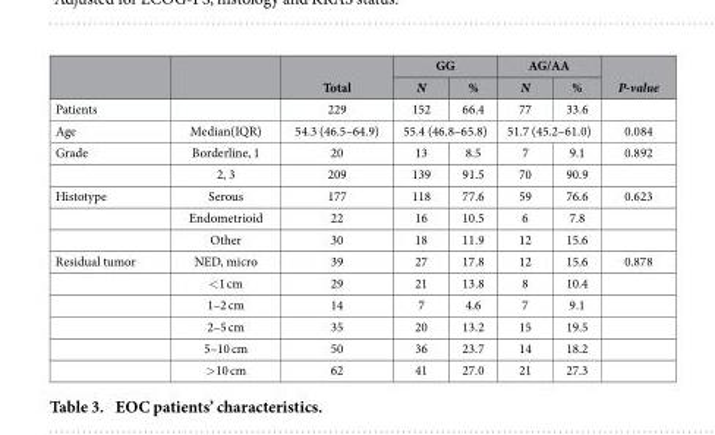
<table><thead><tr><td rowspan="2"></td><td rowspan="2"></td><td rowspan="2">Total</td><td colspan="2">GG</td><td colspan="2">AG/AA</td><td rowspan="2">P-value</td></tr><tr><td>N</td><td>%</td><td>N</td><td>%</td></tr></thead><tbody><tr><td>Patients</td><td></td><td>229</td><td>152</td><td>66.4</td><td>77</td><td>33.6</td><td></td></tr><tr><td>Age</td><td>Median(IQR)</td><td>54.3 (46.5–64.9)</td><td colspan="2">55.4 (46.8–65.8)</td><td colspan="2">51.7 (45.2–61.0)</td><td>0.084</td></tr><tr><td rowspan="2">Grade</td><td>Borderline, 1</td><td>20</td><td>13</td><td>8.5</td><td>7</td><td>9.1</td><td>0.892</td></tr><tr><td>2, 3</td><td>209</td><td>139</td><td>91.5</td><td>70</td><td>90.9</td><td></td></tr><tr><td rowspan="3">Histotype</td><td>Serous</td><td>177</td><td>118</td><td>77.6</td><td>59</td><td>76.6</td><td>0.623</td></tr><tr><td>Endometrioid</td><td>22</td><td>16</td><td>10.5</td><td>6</td><td>7.8</td><td></td></tr><tr><td>Other</td><td>30</td><td>18</td><td>11.9</td><td>12</td><td>15.6</td><td></td></tr><tr><td rowspan="6">Residual tumor</td><td>NED, micro</td><td>39</td><td>27</td><td>17.8</td><td>12</td><td>15.6</td><td>0.878</td></tr><tr><td>&lt; 1 cm</td><td>29</td><td>21</td><td>13.8</td><td>8</td><td>10.4</td><td></td></tr><tr><td>1–2 cm</td><td>14</td><td>7</td><td>4.6</td><td>7</td><td>9.1</td><td></td></tr><tr><td>2–5 cm</td><td>35</td><td>20</td><td>13.2</td><td>15</td><td>19.5</td><td></td></tr><tr><td>5–10 cm</td><td>50</td><td>36</td><td>23.7</td><td>14</td><td>18.2</td><td></td></tr><tr><td>&gt; 10 cm</td><td>62</td><td>41</td><td>27.0</td><td>21</td><td>27.3</td><td></td></tr></tbody></table>